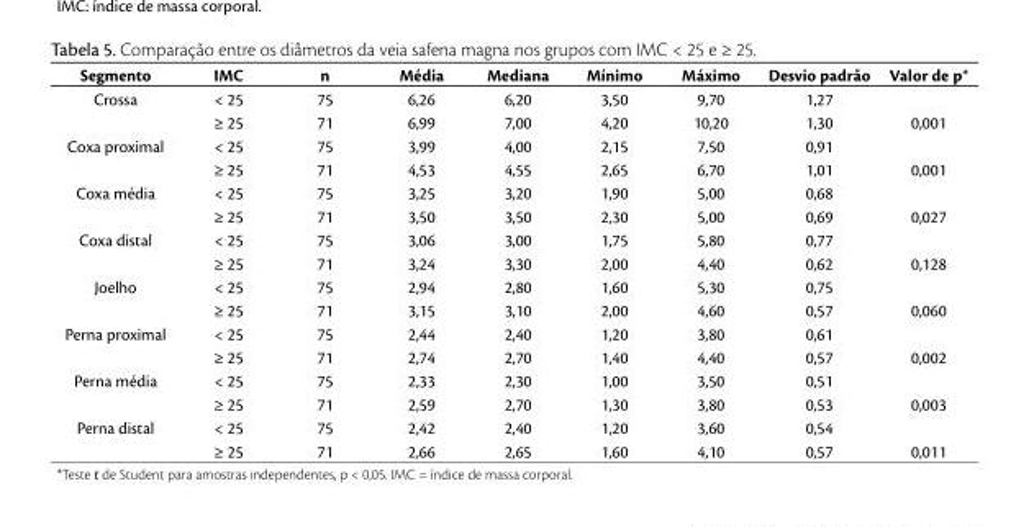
<table><thead><tr><td>Segmento</td><td>IMC</td><td>n</td><td>Média</td><td>Mediana</td><td>Mínimo</td><td>Máximo</td><td>Desvio padrão</td><td>Valor de p*</td></tr></thead><tbody><tr><td rowspan="2">Crossa</td><td>&lt; 25</td><td>75</td><td>6,26</td><td>6,20</td><td>3,50</td><td>9,70</td><td>1,27</td><td></td></tr><tr><td>≥ 25</td><td>71</td><td>6,99</td><td>7,00</td><td>4,20</td><td>10,20</td><td>1,30</td><td>0,001</td></tr><tr><td rowspan="2">Coxa proximal</td><td>&lt; 25</td><td>75</td><td>3,99</td><td>4,00</td><td>2,15</td><td>7,50</td><td>0,91</td><td></td></tr><tr><td>≥ 25</td><td>71</td><td>4,53</td><td>4,55</td><td>2,65</td><td>6,70</td><td>1,01</td><td>0,001</td></tr><tr><td rowspan="2">Coxa média</td><td>&lt; 25</td><td>75</td><td>3,25</td><td>3,20</td><td>1,90</td><td>5,00</td><td>0,68</td><td></td></tr><tr><td>≥ 25</td><td>71</td><td>3,50</td><td>3,50</td><td>2,30</td><td>5,00</td><td>0,69</td><td>0,027</td></tr><tr><td rowspan="2">Coxa distal</td><td>&lt; 25</td><td>75</td><td>3,06</td><td>3,00</td><td>1,75</td><td>5,80</td><td>0,77</td><td></td></tr><tr><td>≥ 25</td><td>71</td><td>3,24</td><td>3,30</td><td>2,00</td><td>4,40</td><td>0,62</td><td>0,128</td></tr><tr><td rowspan="2">Joelho</td><td>&lt; 25</td><td>75</td><td>2,94</td><td>2,80</td><td>1,60</td><td>5,30</td><td>0,75</td><td></td></tr><tr><td>≥ 25</td><td>71</td><td>3,15</td><td>3,10</td><td>2,00</td><td>4,60</td><td>0,57</td><td>0,060</td></tr><tr><td rowspan="2">Perna proximal</td><td>&lt; 25</td><td>75</td><td>2,44</td><td>2,40</td><td>1,20</td><td>3,80</td><td>0,61</td><td></td></tr><tr><td>≥ 25</td><td>71</td><td>2,74</td><td>2,70</td><td>1,40</td><td>4,40</td><td>0,57</td><td>0,002</td></tr><tr><td rowspan="2">Perna média</td><td>&lt; 25</td><td>75</td><td>2,33</td><td>2,30</td><td>1,00</td><td>3,50</td><td>0,51</td><td></td></tr><tr><td>≥ 25</td><td>71</td><td>2,59</td><td>2,70</td><td>1,30</td><td>3,80</td><td>0,53</td><td>0,003</td></tr><tr><td rowspan="2">Perna distal</td><td>&lt; 25</td><td>75</td><td>2,42</td><td>2,40</td><td>1,20</td><td>3,60</td><td>0,54</td><td></td></tr><tr><td>≥ 25</td><td>71</td><td>2,66</td><td>2,65</td><td>1,60</td><td>4,10</td><td>0,57</td><td>0,011</td></tr></tbody></table>